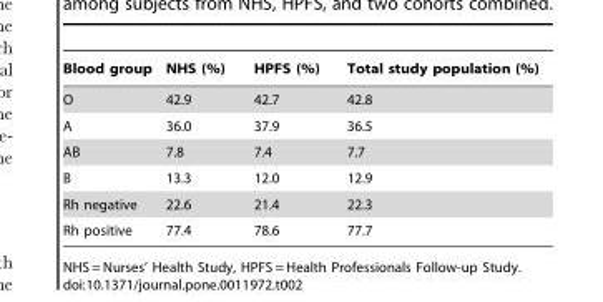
<table><thead><tr><td>Blood group</td><td>NHS (%)</td><td>HPFS (%)</td><td>Total study population (%)</td></tr></thead><tbody><tr><td>O</td><td>42.9</td><td>42.7</td><td>42.8</td></tr><tr><td>A</td><td>36.0</td><td>37.9</td><td>36.5</td></tr><tr><td>AB</td><td>7.8</td><td>7.4</td><td>7.7</td></tr><tr><td>B</td><td>13.3</td><td>12.0</td><td>12.9</td></tr><tr><td>Rh negative</td><td>22.6</td><td>21.4</td><td>22.3</td></tr><tr><td>Rh positive</td><td>77.4</td><td>78.6</td><td>77.7</td></tr></tbody></table>